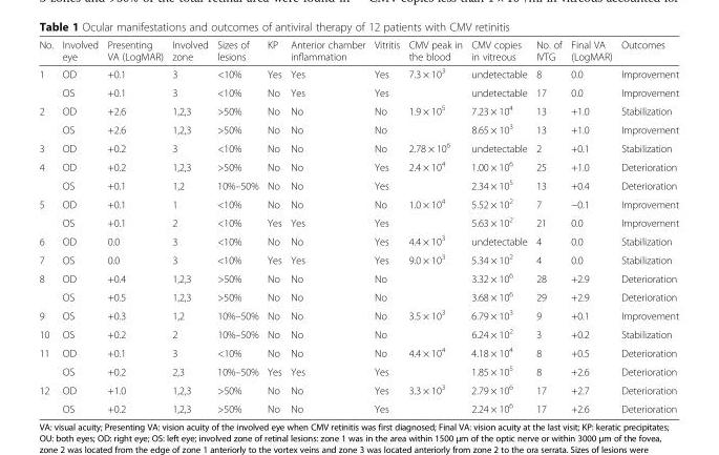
<table><thead><tr><td>No.</td><td>Involved eye</td><td>Presenting VA (LogMAR)</td><td>Involved zone</td><td>Sizes of lesions</td><td>KP</td><td>Anterior chamber inflammation</td><td>Vitritis</td><td>CMV peak in the blood</td><td>CMV copies in vitreous</td><td>No. of IVTG</td><td>Final VA (LogMAR)</td><td>Outcomes</td></tr></thead><tbody><tr><td rowspan="2">1</td><td>OD</td><td>+0.1</td><td>3</td><td>&lt;10%</td><td>Yes</td><td>Yes</td><td>Yes</td><td>7.3 × 10<sup>3</sup></td><td>undetectable</td><td>8</td><td>0.0</td><td>Improvement</td></tr><tr><td>OS</td><td>+0.1</td><td>3</td><td>&lt;10%</td><td>No</td><td>Yes</td><td>Yes</td><td></td><td>undetectable</td><td>17</td><td>0.0</td><td>Improvement</td></tr><tr><td rowspan="2">2</td><td>OD</td><td>+2.6</td><td>1,2,3</td><td>&gt;50%</td><td>No</td><td>No</td><td>No</td><td>1.9 × 10<sup>5</sup></td><td>7.23 × 10<sup>4</sup></td><td>13</td><td>+1.0</td><td>Stabilization</td></tr><tr><td>OS</td><td>+2.6</td><td>1,2,3</td><td>&gt;50%</td><td>No</td><td>No</td><td>No</td><td></td><td>8.65 × 10<sup>3</sup></td><td>13</td><td>+1.0</td><td>Improvement</td></tr><tr><td>3</td><td>OD</td><td>+0.2</td><td>3</td><td>&lt;10%</td><td>No</td><td>No</td><td>No</td><td>2.78 × 10<sup>6</sup></td><td>undetectable</td><td>2</td><td>+0.1</td><td>Stabilization</td></tr><tr><td rowspan="2">4</td><td>OD</td><td>+0.2</td><td>1,2,3</td><td>&gt;50%</td><td>No</td><td>No</td><td>Yes</td><td>2.4 × 10<sup>4</sup></td><td>1.00 × 10<sup>6</sup></td><td>25</td><td>+1.0</td><td>Deterioration</td></tr><tr><td>OS</td><td>+0.1</td><td>1,2</td><td>10%–50%</td><td>No</td><td>No</td><td>Yes</td><td></td><td>2.34 × 10<sup>5</sup></td><td>13</td><td>+0.4</td><td>Deterioration</td></tr><tr><td rowspan="2">5</td><td>OD</td><td>+0.1</td><td>1</td><td>&lt;10%</td><td>No</td><td>No</td><td>No</td><td>1.0 × 10<sup>4</sup></td><td>5.52 × 10<sup>2</sup></td><td>7</td><td>−0.1</td><td>Improvement</td></tr><tr><td>OS</td><td>+0.1</td><td>2</td><td>&lt;10%</td><td>Yes</td><td>Yes</td><td>Yes</td><td></td><td>5.63 × 10<sup>2</sup></td><td>21</td><td>0.0</td><td>Improvement</td></tr><tr><td>6</td><td>OD</td><td>0.0</td><td>3</td><td>&lt;10%</td><td>No</td><td>No</td><td>Yes</td><td>4.4 × 10<sup>3</sup></td><td>undetectable</td><td>4</td><td>0.0</td><td>Stabilization</td></tr><tr><td>7</td><td>OS</td><td>0.0</td><td>3</td><td>&lt;10%</td><td>Yes</td><td>Yes</td><td>Yes</td><td>9.0 × 10<sup>3</sup></td><td>5.34 × 10<sup>2</sup></td><td>4</td><td>0.0</td><td>Stabilization</td></tr><tr><td rowspan="2">8</td><td>OD</td><td>+0.4</td><td>1,2,3</td><td>&gt;50%</td><td>No</td><td>No</td><td>No</td><td></td><td>3.32 × 10<sup>6</sup></td><td>28</td><td>+2.9</td><td>Deterioration</td></tr><tr><td>OS</td><td>+0.5</td><td>1,2,3</td><td>&gt;50%</td><td>No</td><td>No</td><td>No</td><td></td><td>3.68 × 10<sup>6</sup></td><td>29</td><td>+2.9</td><td>Deterioration</td></tr><tr><td>9</td><td>OS</td><td>+0.3</td><td>1,2</td><td>10%–50%</td><td>No</td><td>No</td><td>No</td><td>3.5 × 10<sup>3</sup></td><td>6.79 × 10<sup>3</sup></td><td>9</td><td>+0.1</td><td>Improvement</td></tr><tr><td>10</td><td>OS</td><td>+0.2</td><td>2</td><td>10%–50%</td><td>No</td><td>No</td><td>No</td><td></td><td>6.24 × 10<sup>2</sup></td><td>3</td><td>+0.2</td><td>Stabilization</td></tr><tr><td rowspan="2">11</td><td>OD</td><td>+0.1</td><td>3</td><td>&lt;10%</td><td>No</td><td>No</td><td>No</td><td>4.4 × 10<sup>4</sup></td><td>4.18 × 10<sup>4</sup></td><td>8</td><td>+0.5</td><td>Deterioration</td></tr><tr><td>OS</td><td>+0.2</td><td>2,3</td><td>10%–50%</td><td>Yes</td><td>Yes</td><td>Yes</td><td></td><td>1.85 × 10<sup>5</sup></td><td>8</td><td>+2.6</td><td>Deterioration</td></tr><tr><td rowspan="2">12</td><td>OD</td><td>+1.0</td><td>1,2,3</td><td>&gt;50%</td><td>No</td><td>No</td><td>Yes</td><td>3.3 × 10<sup>3</sup></td><td>2.79 × 10<sup>6</sup></td><td>17</td><td>+2.7</td><td>Deterioration</td></tr><tr><td>OS</td><td>+0.2</td><td>1,2,3</td><td>&gt;50%</td><td>No</td><td>No</td><td>Yes</td><td></td><td>2.24 × 10<sup>6</sup></td><td>17</td><td>+2.6</td><td>Deterioration</td></tr></tbody></table>